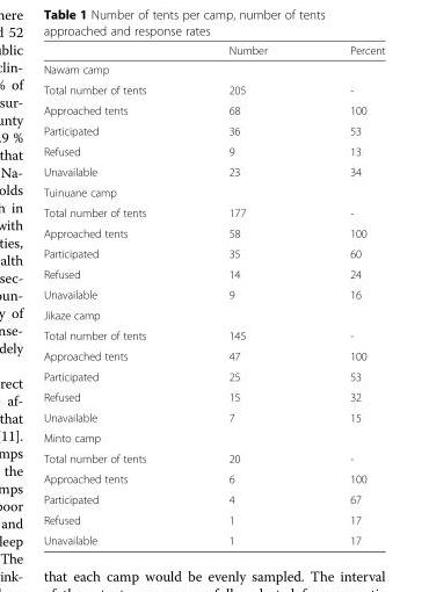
<table><thead><tr><td></td><td>Number</td><td>Percent</td></tr></thead><tbody><tr><td colspan="3">Nawam camp</td></tr><tr><td>Total number of tents</td><td>205</td><td>-</td></tr><tr><td>Approached tents</td><td>68</td><td>100</td></tr><tr><td>Participated</td><td>36</td><td>53</td></tr><tr><td>Refused</td><td>9</td><td>13</td></tr><tr><td>Unavailable</td><td>23</td><td>34</td></tr><tr><td colspan="3">Tuinuane camp</td></tr><tr><td>Total number of tents</td><td>177</td><td>-</td></tr><tr><td>Approached tents</td><td>58</td><td>100</td></tr><tr><td>Participated</td><td>35</td><td>60</td></tr><tr><td>Refused</td><td>14</td><td>24</td></tr><tr><td>Unavailable</td><td>9</td><td>16</td></tr><tr><td colspan="3">Jikaze camp</td></tr><tr><td>Total number of tents</td><td>145</td><td>-</td></tr><tr><td>Approached tents</td><td>47</td><td>100</td></tr><tr><td>Participated</td><td>25</td><td>53</td></tr><tr><td>Refused</td><td>15</td><td>32</td></tr><tr><td>Unavailable</td><td>7</td><td>15</td></tr><tr><td colspan="3">Minto camp</td></tr><tr><td>Total number of tents</td><td>20</td><td>-</td></tr><tr><td>Approached tents</td><td>6</td><td>100</td></tr><tr><td>Participated</td><td>4</td><td>67</td></tr><tr><td>Refused</td><td>1</td><td>17</td></tr><tr><td>Unavailable</td><td>1</td><td>17</td></tr></tbody></table>